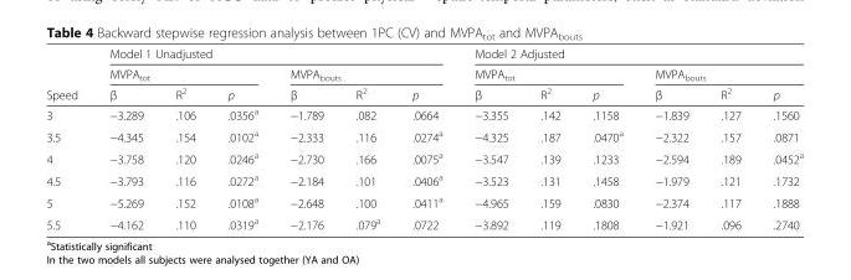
<table><thead><tr><td rowspan="3">Speed</td><td colspan="6">Model 1 Unadjusted</td><td colspan="6">Model 2 Adjusted</td></tr><tr><td colspan="3">MVPA<sub>tot</sub></td><td colspan="3">MVPA<sub>bouts</sub></td><td colspan="3">MVPA<sub>tot</sub></td><td colspan="3">MVPA<sub>bouts</sub></td></tr><tr><td>β</td><td>R<sup>2</sup></td><td>p</td><td>β</td><td>R<sup>2</sup></td><td>p</td><td>β</td><td>R<sup>2</sup></td><td>p</td><td>β</td><td>R<sup>2</sup></td><td>p</td></tr></thead><tbody><tr><td>3</td><td>−3.289</td><td>.106</td><td>.0356<sup>a</sup></td><td>−1.789</td><td>.082</td><td>.0664</td><td>−3.355</td><td>.142</td><td>.1158</td><td>−1.839</td><td>.127</td><td>.1560</td></tr><tr><td>3.5</td><td>−4.345</td><td>.154</td><td>.0102<sup>a</sup></td><td>−2.333</td><td>.116</td><td>.0274<sup>a</sup></td><td>−4.325</td><td>.187</td><td>.0470<sup>a</sup></td><td>−2.322</td><td>.157</td><td>.0871</td></tr><tr><td>4</td><td>−3.758</td><td>.120</td><td>.0246<sup>a</sup></td><td>−2.730</td><td>.166</td><td>.0075<sup>a</sup></td><td>−3.547</td><td>.139</td><td>.1233</td><td>−2.594</td><td>.189</td><td>.0452<sup>a</sup></td></tr><tr><td>4.5</td><td>−3.793</td><td>.116</td><td>.0272<sup>a</sup></td><td>−2.184</td><td>.101</td><td>.0406<sup>a</sup></td><td>−3.523</td><td>.131</td><td>.1458</td><td>−1.979</td><td>.121</td><td>.1732</td></tr><tr><td>5</td><td>−5.269</td><td>.152</td><td>.0108<sup>a</sup></td><td>−2.648</td><td>.100</td><td>.0411<sup>a</sup></td><td>−4.965</td><td>.159</td><td>.0830</td><td>−2.374</td><td>.117</td><td>.1888</td></tr><tr><td>5.5</td><td>−4.162</td><td>.110</td><td>.0319<sup>a</sup></td><td>−2.176</td><td>.079<sup>a</sup></td><td>.0722</td><td>−3.892</td><td>.119</td><td>.1808</td><td>−1.921</td><td>.096</td><td>.2740</td></tr></tbody></table>